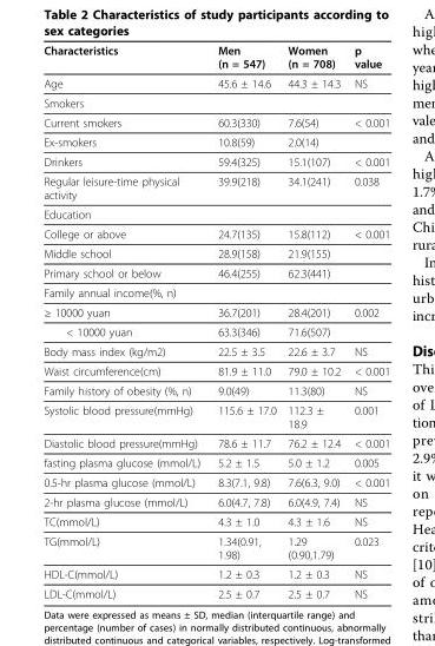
<table><thead><tr><td>Characteristics</td><td>Men (n = 547)</td><td>Women (n = 708)</td><td>p value</td></tr></thead><tbody><tr><td>Age</td><td>45.6 ± 14.6</td><td>44.3 ± 14.3</td><td>NS</td></tr><tr><td colspan="4">Smokers</td></tr><tr><td>Current smokers</td><td>60.3(330)</td><td>7.6(54)</td><td>&lt; 0.001</td></tr><tr><td>Ex-smokers</td><td>10.8(59)</td><td>2.0(14)</td><td></td></tr><tr><td>Drinkers</td><td>59.4(325)</td><td>15.1(107)</td><td>&lt; 0.001</td></tr><tr><td>Regular leisure-time physical activity</td><td>39.9(218)</td><td>34.1(241)</td><td>0.038</td></tr><tr><td colspan="4">Education</td></tr><tr><td>College or above</td><td>24.7(135)</td><td>15.8(112)</td><td>&lt; 0.001</td></tr><tr><td>Middle school</td><td>28.9(158)</td><td>21.9(155)</td><td></td></tr><tr><td>Primary school or below</td><td>46.4(255)</td><td>62.3(441)</td><td></td></tr><tr><td colspan="4">Family annual income(%, n)</td></tr><tr><td>≥ 10000 yuan</td><td>36.7(201)</td><td>28.4(201)</td><td>0.002</td></tr><tr><td>&lt; 10000 yuan</td><td>63.3(346)</td><td>71.6(507)</td><td></td></tr><tr><td>Body mass index (kg/m2)</td><td>22.5 ± 3.5</td><td>22.6 ± 3.7</td><td>NS</td></tr><tr><td>Waist circumference(cm)</td><td>81.9 ± 11.0</td><td>79.0 ± 10.2</td><td>&lt; 0.001</td></tr><tr><td>Family history of obesity (%, n)</td><td>9.0(49)</td><td>11.3(80)</td><td>NS</td></tr><tr><td>Systolic blood pressure(mmHg)</td><td>115.6 ± 17.0</td><td>112.3 ± 18.9</td><td>0.001</td></tr><tr><td>Diastolic blood pressure(mmHg)</td><td>78.6 ± 11.7</td><td>76.2 ± 12.4</td><td>&lt; 0.001</td></tr><tr><td>fasting plasma glucose (mmol/L)</td><td>5.2 ± 1.5</td><td>5.0 ± 1.2</td><td>0.005</td></tr><tr><td>0.5-hr plasma glucose (mmol/L)</td><td>8.3(7.1, 9.8)</td><td>7.6(6.3, 9.0)</td><td>&lt; 0.001</td></tr><tr><td>2-hr plasma glucose (mmol/L)</td><td>6.0(4.7, 7.8)</td><td>6.0(4.9, 7.4)</td><td>NS</td></tr><tr><td>TC(mmol/L)</td><td>4.3 ± 1.0</td><td>4.3 ± 1.6</td><td>NS</td></tr><tr><td>TG(mmol/L)</td><td>1.34(0.91, 1.98)</td><td>1.29 (0.90,1.79)</td><td>0.023</td></tr><tr><td>HDL-C(mmol/L)</td><td>1.2 ± 0.3</td><td>1.2 ± 0.3</td><td>NS</td></tr><tr><td>LDL-C(mmol/L)</td><td>2.5 ± 0.7</td><td>2.5 ± 0.7</td><td>NS</td></tr></tbody></table>